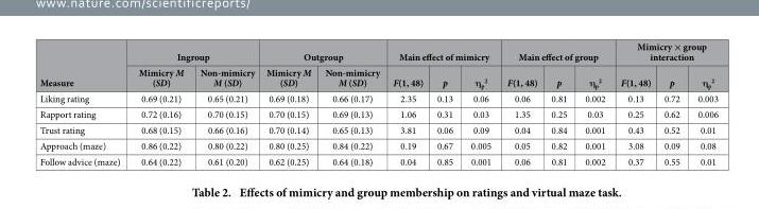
<table><thead><tr><td rowspan="2">Measure</td><td colspan="2">Ingroup</td><td colspan="2">Outgroup</td><td colspan="3">Main effect of mimicry</td><td colspan="3">Main effect of group</td><td colspan="3">Mimicry × group interaction</td></tr><tr><td>Mimicry M (SD)</td><td>Non-mimicry M (SD)</td><td>Mimicry M (SD)</td><td>Non-mimicry M (SD)</td><td>F(1, 48)</td><td>p</td><td>η<sub>p</sub> <sup>2</sup></td><td>F(1, 48)</td><td>p</td><td>η<sub>p</sub> <sup>2</sup></td><td>F(1, 48)</td><td>p</td><td>η<sub>p</sub> <sup>2</sup></td></tr></thead><tbody><tr><td>Liking rating</td><td>0.69 (0.21)</td><td>0.65 (0.21)</td><td>0.69 (0.18)</td><td>0.66 (0.17)</td><td>2.35</td><td>0.13</td><td>0.06</td><td>0.06</td><td>0.81</td><td>0.002</td><td>0.13</td><td>0.72</td><td>0.003</td></tr><tr><td>Rapport rating</td><td>0.72 (0.16)</td><td>0.70 (0.15)</td><td>0.70 (0.15)</td><td>0.69 (0.13)</td><td>1.06</td><td>0.31</td><td>0.03</td><td>1.35</td><td>0.25</td><td>0.03</td><td>0.25</td><td>0.62</td><td>0.006</td></tr><tr><td>Trust rating</td><td>0.68 (0.15)</td><td>0.66 (0.16)</td><td>0.70 (0.14)</td><td>0.65 (0.13)</td><td>3.81</td><td>0.06</td><td>0.09</td><td>0.04</td><td>0.84</td><td>0.001</td><td>0.43</td><td>0.52</td><td>0.01</td></tr><tr><td>Approach (maze)</td><td>0.86 (0.22)</td><td>0.80 (0.22)</td><td>0.80 (0.25)</td><td>0.84 (0.22)</td><td>0.19</td><td>0.67</td><td>0.005</td><td>0.05</td><td>0.82</td><td>0.001</td><td>3.08</td><td>0.09</td><td>0.08</td></tr><tr><td>Follow advice (maze)</td><td>0.64 (0.22)</td><td>0.61 (0.20)</td><td>0.62 (0.25)</td><td>0.64 (0.18)</td><td>0.04</td><td>0.85</td><td>0.001</td><td>0.06</td><td>0.81</td><td>0.002</td><td>0.37</td><td>0.55</td><td>0.01</td></tr></tbody></table>